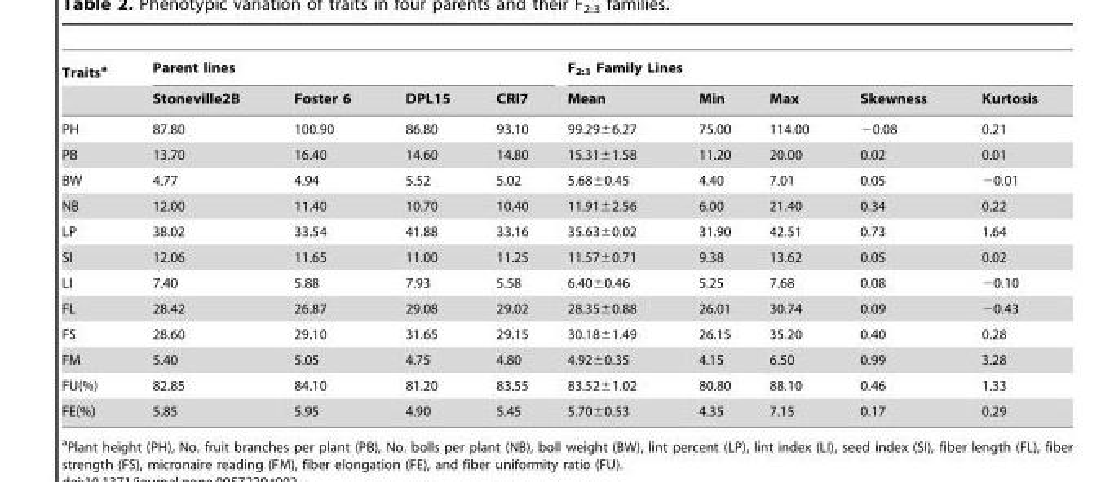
<table><thead><tr><td rowspan="2">Traits<sup>a</sup></td><td colspan="4">Parent lines</td><td colspan="5">F2:3 Family Lines</td></tr><tr><td>Stoneville2B</td><td>Foster 6</td><td>DPL15</td><td>CRI7</td><td>Mean</td><td>Min</td><td>Max</td><td>Skewness</td><td>Kurtosis</td></tr></thead><tbody><tr><td>PH</td><td>87.80</td><td>100.90</td><td>86.80</td><td>93.10</td><td>99.29±6.27</td><td>75.00</td><td>114.00</td><td>−0.08</td><td>0.21</td></tr><tr><td>PB</td><td>13.70</td><td>16.40</td><td>14.60</td><td>14.80</td><td>15.31±1.58</td><td>11.20</td><td>20.00</td><td>0.02</td><td>0.01</td></tr><tr><td>BW</td><td>4.77</td><td>4.94</td><td>5.52</td><td>5.02</td><td>5.68±0.45</td><td>4.40</td><td>7.01</td><td>0.05</td><td>−0.01</td></tr><tr><td>NB</td><td>12.00</td><td>11.40</td><td>10.70</td><td>10.40</td><td>11.91±2.56</td><td>6.00</td><td>21.40</td><td>0.34</td><td>0.22</td></tr><tr><td>LP</td><td>38.02</td><td>33.54</td><td>41.88</td><td>33.16</td><td>35.63±0.02</td><td>31.90</td><td>42.51</td><td>0.73</td><td>1.64</td></tr><tr><td>SI</td><td>12.06</td><td>11.65</td><td>11.00</td><td>11.25</td><td>11.57±0.71</td><td>9.38</td><td>13.62</td><td>0.05</td><td>0.02</td></tr><tr><td>LI</td><td>7.40</td><td>5.88</td><td>7.93</td><td>5.58</td><td>6.40±0.46</td><td>5.25</td><td>7.68</td><td>0.08</td><td>−0.10</td></tr><tr><td>FL</td><td>28.42</td><td>26.87</td><td>29.08</td><td>29.02</td><td>28.35±0.88</td><td>26.01</td><td>30.74</td><td>0.09</td><td>−0.43</td></tr><tr><td>FS</td><td>28.60</td><td>29.10</td><td>31.65</td><td>29.15</td><td>30.18±1.49</td><td>26.15</td><td>35.20</td><td>0.40</td><td>0.28</td></tr><tr><td>FM</td><td>5.40</td><td>5.05</td><td>4.75</td><td>4.80</td><td>4.92±0.35</td><td>4.15</td><td>6.50</td><td>0.99</td><td>3.28</td></tr><tr><td>FU(%)</td><td>82.85</td><td>84.10</td><td>81.20</td><td>83.55</td><td>83.52±1.02</td><td>80.80</td><td>88.10</td><td>0.46</td><td>1.33</td></tr><tr><td>FE(%)</td><td>5.85</td><td>5.95</td><td>4.90</td><td>5.45</td><td>5.70±0.53</td><td>4.35</td><td>7.15</td><td>0.17</td><td>0.29</td></tr></tbody></table>